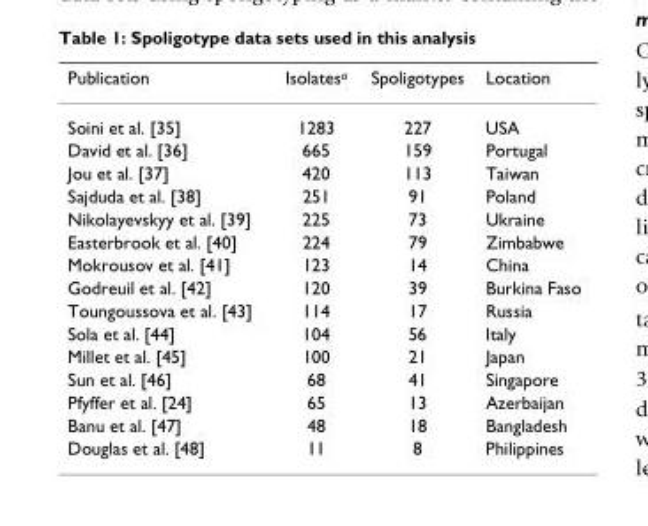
<table><thead><tr><td>Publication</td><td>Isolates<sup>a</sup></td><td>Spoligotypes</td><td>Location</td></tr></thead><tbody><tr><td>Soini et al. [35]</td><td>1283</td><td>227</td><td>USA</td></tr><tr><td>David et al. [36]</td><td>665</td><td>159</td><td>Portugal</td></tr><tr><td>Jou et al. [37]</td><td>420</td><td>113</td><td>Taiwan</td></tr><tr><td>Sajduda et al. [38]</td><td>251</td><td>91</td><td>Poland</td></tr><tr><td>Nikolayevskyy et al. [39]</td><td>225</td><td>73</td><td>Ukraine</td></tr><tr><td>Easterbrook et al. [40]</td><td>224</td><td>79</td><td>Zimbabwe</td></tr><tr><td>Mokrousov et al. [41]</td><td>123</td><td>14</td><td>China</td></tr><tr><td>Godreuil et al. [42]</td><td>120</td><td>39</td><td>Burkina Faso</td></tr><tr><td>Toungoussova et al. [43]</td><td>114</td><td>17</td><td>Russia</td></tr><tr><td>Sola et al. [44]</td><td>104</td><td>56</td><td>Italy</td></tr><tr><td>Millet et al. [45]</td><td>100</td><td>21</td><td>Japan</td></tr><tr><td>Sun et al. [46]</td><td>68</td><td>41</td><td>Singapore</td></tr><tr><td>Pfyffer et al. [24]</td><td>65</td><td>13</td><td>Azerbaijan</td></tr><tr><td>Banu et al. [47]</td><td>48</td><td>18</td><td>Bangladesh</td></tr><tr><td>Douglas et al. [48]</td><td>11</td><td>8</td><td>Philippines</td></tr></tbody></table>